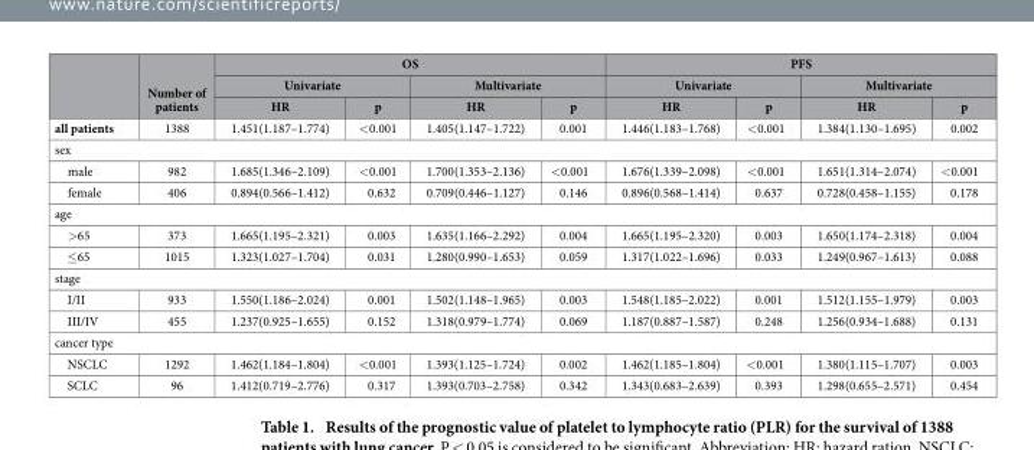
<table><thead><tr><td rowspan="3"></td><td rowspan="3">Number of patients</td><td colspan="4">OS</td><td colspan="4">PFS</td></tr><tr><td colspan="2">Univariate</td><td colspan="2">Multivariate</td><td colspan="2">Univariate</td><td colspan="2">Multivariate</td></tr><tr><td>HR</td><td>p</td><td>HR</td><td>p</td><td>HR</td><td>p</td><td>HR</td><td>p</td></tr></thead><tbody><tr><td>all patients</td><td>1388</td><td>1.451(1.187–1.774)</td><td>&lt; 0.001</td><td>1.405(1.147–1.722)</td><td>0.001</td><td>1.446(1.183–1.768)</td><td>&lt; 0.001</td><td>1.384(1.130–1.695)</td><td>0.002</td></tr><tr><td colspan="10">sex</td></tr><tr><td>male</td><td>982</td><td>1.685(1.346–2.109)</td><td>&lt; 0.001</td><td>1.700(1.353–2.136)</td><td>&lt; 0.001</td><td>1.676(1.339–2.098)</td><td>&lt; 0.001</td><td>1.651(1.314–2.074)</td><td>&lt; 0.001</td></tr><tr><td>female</td><td>406</td><td>0.894(0.566–1.412)</td><td>0.632</td><td>0.709(0.446–1.127)</td><td>0.146</td><td>0.896(0.568–1.414)</td><td>0.637</td><td>0.728(0.458–1.155)</td><td>0.178</td></tr><tr><td colspan="10">age</td></tr><tr><td>&gt; 65</td><td>373</td><td>1.665(1.195–2.321)</td><td>0.003</td><td>1.635(1.166–2.292)</td><td>0.004</td><td>1.665(1.195–2.320)</td><td>0.003</td><td>1.650(1.174–2.318)</td><td>0.004</td></tr><tr><td>≤ 65</td><td>1015</td><td>1.323(1.027–1.704)</td><td>0.031</td><td>1.280(0.990–1.653)</td><td>0.059</td><td>1.317(1.022–1.696)</td><td>0.033</td><td>1.249(0.967–1.613)</td><td>0.088</td></tr><tr><td colspan="10">stage</td></tr><tr><td>I/II</td><td>933</td><td>1.550(1.186–2.024)</td><td>0.001</td><td>1.502(1.148–1.965)</td><td>0.003</td><td>1.548(1.185–2.022)</td><td>0.001</td><td>1.512(1.155–1.979)</td><td>0.003</td></tr><tr><td>III/IV</td><td>455</td><td>1.237(0.925–1.655)</td><td>0.152</td><td>1.318(0.979–1.774)</td><td>0.069</td><td>1.187(0.887–1.587)</td><td>0.248</td><td>1.256(0.934–1.688)</td><td>0.131</td></tr><tr><td colspan="10">cancer type</td></tr><tr><td>NSCLC</td><td>1292</td><td>1.462(1.184–1.804)</td><td>&lt; 0.001</td><td>1.393(1.125–1.724)</td><td>0.002</td><td>1.462(1.185–1.804)</td><td>&lt; 0.001</td><td>1.380(1.115–1.707)</td><td>0.003</td></tr><tr><td>SCLC</td><td>96</td><td>1.412(0.719–2.776)</td><td>0.317</td><td>1.393(0.703–2.758)</td><td>0.342</td><td>1.343(0.683–2.639)</td><td>0.393</td><td>1.298(0.655–2.571)</td><td>0.454</td></tr></tbody></table>